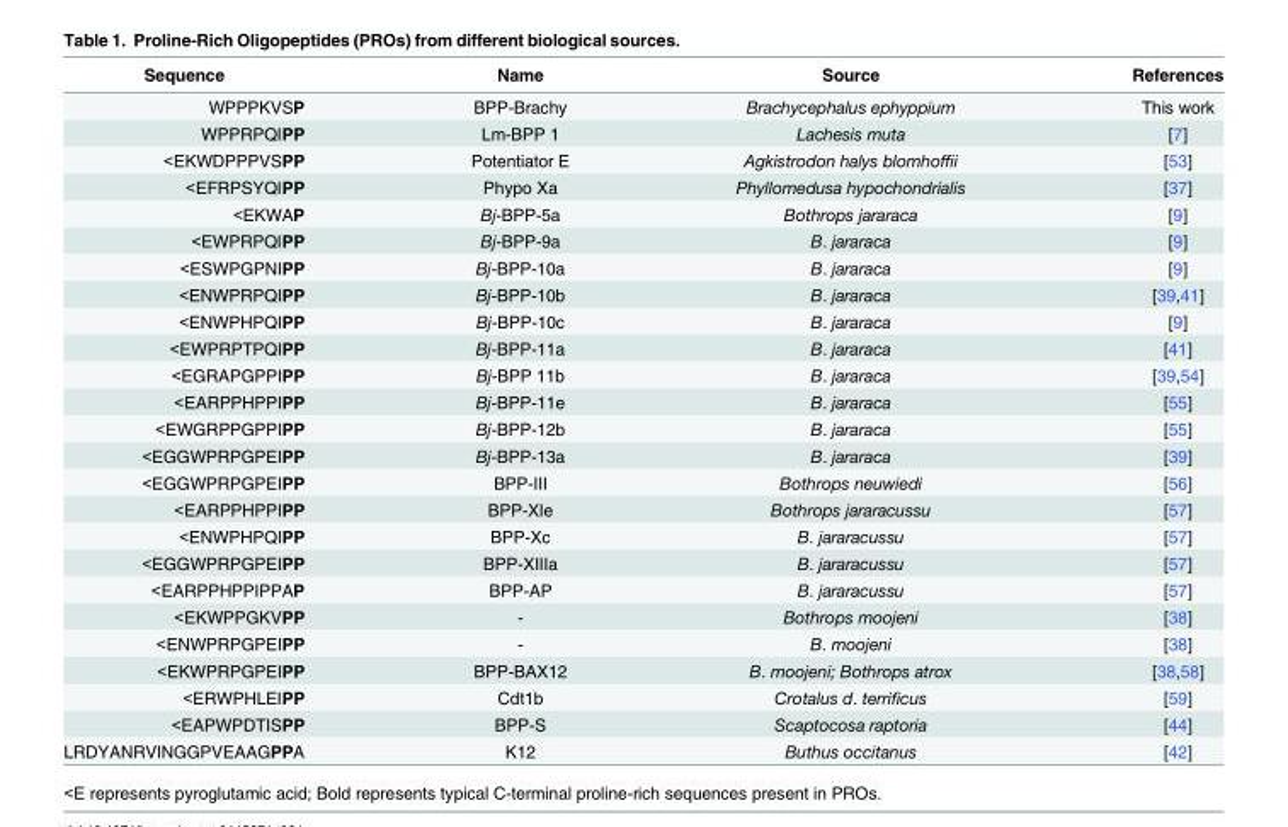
<table><thead><tr><td>Sequence</td><td>Name</td><td>Source</td><td>References</td></tr></thead><tbody><tr><td>WPPPKVSP</td><td>BPP-Brachy</td><td>Brachycephalus ephyppium</td><td>This work</td></tr><tr><td>WPPRPQIPP</td><td>Lm-BPP 1</td><td>Lachesis muta</td><td>[7]</td></tr><tr><td>&lt;EKWDPPPVSPP</td><td>Potentiator E</td><td>Agkistrodon halys blomhoffii</td><td>[53]</td></tr><tr><td>&lt;EFRPSYQIPP</td><td>Phypo Xa</td><td>Phyllomedusa hypochondrialis</td><td>[37]</td></tr><tr><td>&lt;EKWAP</td><td>Bj-BPP-5a</td><td>Bothrops jararaca</td><td>[9]</td></tr><tr><td>&lt;EWPRPQIPP</td><td>Bj-BPP-9a</td><td>B. jararaca</td><td>[9]</td></tr><tr><td>&lt;ESWPGPNIPP</td><td>Bj-BPP-10a</td><td>B. jararaca</td><td>[9]</td></tr><tr><td>&lt;ENWPRPQIPP</td><td>Bj-BPP-10b</td><td>B. jararaca</td><td>[39,41]</td></tr><tr><td>&lt;ENWPHPQIPP</td><td>Bj-BPP-10c</td><td>B. jararaca</td><td>[9]</td></tr><tr><td>&lt;EWPRPTPQIPP</td><td>Bj-BPP-11a</td><td>B. jararaca</td><td>[41]</td></tr><tr><td>&lt;EGRAPGPPIPP</td><td>Bj-BPP 11b</td><td>B. jararaca</td><td>[39,54]</td></tr><tr><td>&lt;EARPPHPPIPP</td><td>Bj-BPP-11e</td><td>B. jararaca</td><td>[55]</td></tr><tr><td>&lt;EWGRPPGPPIPP</td><td>Bj-BPP-12b</td><td>B. jararaca</td><td>[55]</td></tr><tr><td>&lt;EGGWPRPGPEIPP</td><td>Bj-BPP-13a</td><td>B. jararaca</td><td>[39]</td></tr><tr><td>&lt;EGGWPRPGPEIPP</td><td>BPP-III</td><td>Bothrops neuwiedi</td><td>[56]</td></tr><tr><td>&lt;EARPPHPPIPP</td><td>BPP-XIe</td><td>Bothrops jararacussu</td><td>[57]</td></tr><tr><td>&lt;ENWPHPQIPP</td><td>BPP-Xc</td><td>B. jararacussu</td><td>[57]</td></tr><tr><td>&lt;EGGWPRPGPEIPP</td><td>BPP-XIIIa</td><td>B. jararacussu</td><td>[57]</td></tr><tr><td>&lt;EARPPHPPIPPAP</td><td>BPP-AP</td><td>B. jararacussu</td><td>[57]</td></tr><tr><td>&lt;EKWPPGKVPP</td><td>-</td><td>Bothrops moojeni</td><td>[38]</td></tr><tr><td>&lt;ENWPRPGPEIPP</td><td>-</td><td>B. moojeni</td><td>[38]</td></tr><tr><td>&lt;EKWPRPGPEIPP</td><td>BPP-BAX12</td><td>B. moojeni; Bothrops atrox</td><td>[38,58]</td></tr><tr><td>&lt;ERWPHLEIPP</td><td>Cdt1b</td><td>Crotalus d. terrificus</td><td>[59]</td></tr><tr><td>&lt;EAPWPDTISPP</td><td>BPP-S</td><td>Scaptocosa raptoria</td><td>[44]</td></tr><tr><td>LRDYANRVINGGPVEAAGPPA</td><td>K12</td><td>Buthus occitanus</td><td>[42]</td></tr></tbody></table>